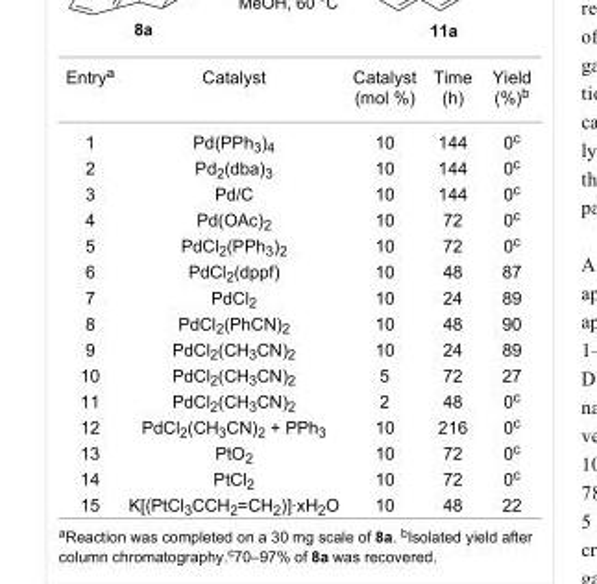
<table><tbody><tr><td>Entry<sup>a</sup></td><td>Catalyst</td><td>Catalyst (mol %)</td><td>Time (h)</td><td>Yield (%)<sup>b</sup></td></tr><tr><td>1</td><td>Pd(PPh<sub>3</sub>)<sub>4</sub></td><td>10</td><td>144</td><td>0<sup>c</sup></td></tr><tr><td>2</td><td>Pd<sub>2</sub>(dba)<sub>3</sub></td><td>10</td><td>144</td><td>0<sup>c</sup></td></tr><tr><td>3</td><td>Pd/C</td><td>10</td><td>144</td><td>0<sup>c</sup></td></tr><tr><td>4</td><td>Pd(OAc)<sub>2</sub></td><td>10</td><td>72</td><td>0<sup>c</sup></td></tr><tr><td>5</td><td>PdCl<sub>2</sub>(PPh<sub>3</sub>)<sub>2</sub></td><td>10</td><td>72</td><td>0<sup>c</sup></td></tr><tr><td>6</td><td>PdCl<sub>2</sub>(dppf)</td><td>10</td><td>48</td><td>87</td></tr><tr><td>7</td><td>PdCl<sub>2</sub></td><td>10</td><td>24</td><td>89</td></tr><tr><td>8</td><td>PdCl<sub>2</sub>(PhCN)<sub>2</sub></td><td>10</td><td>48</td><td>90</td></tr><tr><td>9</td><td>PdCl<sub>2</sub>(CH<sub>3</sub>CN)<sub>2</sub></td><td>10</td><td>24</td><td>89</td></tr><tr><td>10</td><td>PdCl<sub>2</sub>(CH<sub>3</sub>CN)<sub>2</sub></td><td>5</td><td>72</td><td>27</td></tr><tr><td>11</td><td>PdCl<sub>2</sub>(CH<sub>3</sub>CN)<sub>2</sub></td><td>2</td><td>48</td><td>0<sup>c</sup></td></tr><tr><td>12</td><td>PdCl<sub>2</sub>(CH<sub>3</sub>CN)<sub>2</sub> + PPh<sub>3</sub></td><td>10</td><td>216</td><td>0<sup>c</sup></td></tr><tr><td>13</td><td>PtO<sub>2</sub></td><td>10</td><td>72</td><td>0<sup>c</sup></td></tr><tr><td>14</td><td>PtCl<sub>2</sub></td><td>10</td><td>72</td><td>0<sup>c</sup></td></tr><tr><td>15</td><td>K[(PtCl<sub>3</sub>CCH<sub>2</sub>=CH<sub>2</sub>)]·xH<sub>2</sub>O</td><td>10</td><td>48</td><td>22</td></tr></tbody></table>